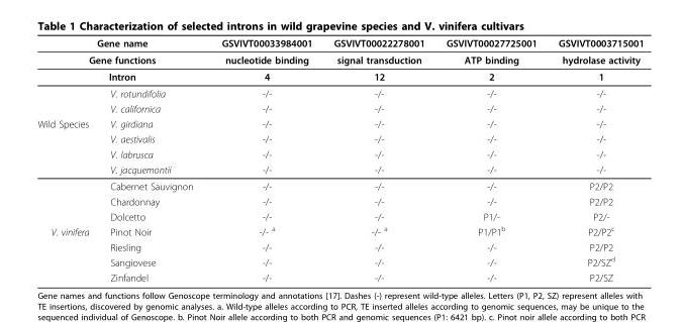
<table><thead><tr><td rowspan="3" colspan="2">Gene name Gene functions Intron</td><td rowspan="4">GSVIVT00033984001 nucleotide binding 4 -/-</td><td rowspan="4">GSVIVT00022278001 signal transduction 12 -/-</td><td rowspan="4">GSVIVT00027725001 ATP binding 2 -/-</td><td rowspan="4">GSVIVT0003715001 hydrolase activity 1 -/-</td></tr><tr></tr><tr></tr><tr><td></td><td>V. rotundifolia</td></tr></thead><tbody><tr><td></td><td>V. californica</td><td>-/-</td><td>-/-</td><td>-/-</td><td>-/-</td></tr><tr><td rowspan="7">Wild Species</td><td>V. girdiana</td><td>-/-</td><td>-/-</td><td>-/-</td><td>-/-</td></tr><tr><td>V. aestivalis</td><td>-/-</td><td>-/-</td><td>-/-</td><td>-/-</td></tr><tr><td>V. labrusca</td><td>-/-</td><td>-/-</td><td>-/-</td><td>-/-</td></tr><tr><td>V. jacquemontii</td><td>-/-</td><td>-/-</td><td>-/-</td><td>-/-</td></tr><tr><td>Cabernet Sauvignon</td><td>-/-</td><td>-/-</td><td>-/-</td><td>P2/P2</td></tr><tr><td>Chardonnay</td><td>-/-</td><td>-/-</td><td>-/-</td><td>P2/P2</td></tr><tr><td>Dolcetto</td><td>-/-</td><td>-/-</td><td>P1/-</td><td>P2/-</td></tr><tr><td rowspan="4">V. vinifera</td><td>Pinot Noir</td><td>-/- <sup>a</sup></td><td>-/- <sup>a</sup></td><td>P1/P1<sup>b</sup></td><td>P2/P2<sup>c</sup></td></tr><tr><td>Riesling</td><td>-/-</td><td>-/-</td><td>-/-</td><td>P2/P2</td></tr><tr><td>Sangiovese</td><td>-/-</td><td>-/-</td><td>-/-</td><td>P2/SZ<sup>d</sup></td></tr><tr><td>Zinfandel</td><td>-/-</td><td>-/-</td><td>-/-</td><td>P2/SZ</td></tr></tbody></table>